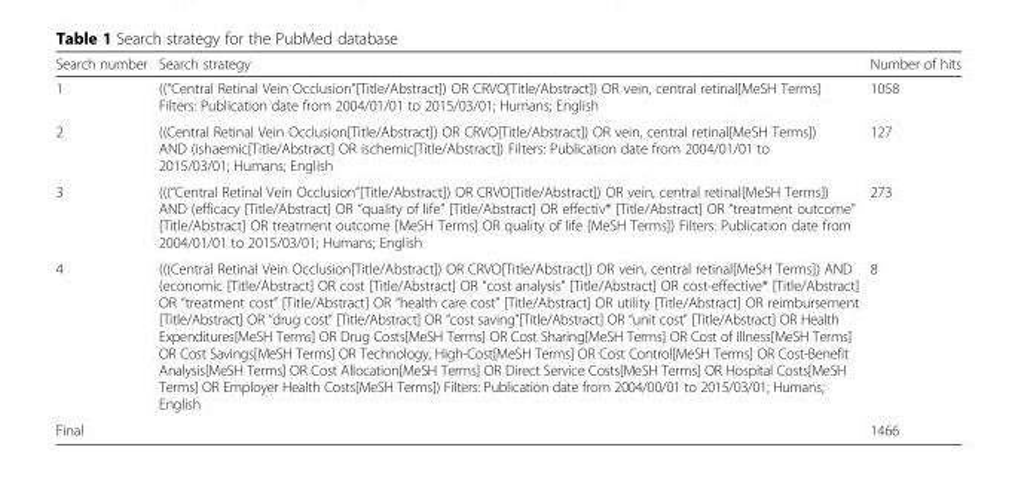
<table><thead><tr><td>Search number</td><td>Search strategy</td><td>Number of hits</td></tr></thead><tbody><tr><td>1</td><td>((“Central Retinal Vein Occlusion”[Title/Abstract]) OR CRVO[Title/Abstract]) OR vein, central retinal[MeSH Terms] Filters: Publication date from 2004/01/01 to 2015/03/01; Humans; English</td><td>1058</td></tr><tr><td>2</td><td>((Central Retinal Vein Occlusion[Title/Abstract]) OR CRVO[Title/Abstract]) OR vein, central retinal[MeSH Terms]) AND (ishaemic[Title/Abstract] OR ischemic[Title/Abstract]) Filters: Publication date from 2004/01/01 to 2015/03/01; Humans; English</td><td>127</td></tr><tr><td>3</td><td>(((“Central Retinal Vein Occlusion”[Title/Abstract]) OR CRVO[Title/Abstract]) OR vein, central retinal[MeSH Terms]) AND (efficacy [Title/Abstract] OR “quality of life” [Title/Abstract] OR effectiv* [Title/Abstract] OR “treatment outcome” [Title/Abstract] OR treatment outcome [MeSH Terms] OR quality of life [MeSH Terms]) Filters: Publication date from 2004/01/01 to 2015/03/01; Humans; English</td><td>273</td></tr><tr><td>4</td><td>(((Central Retinal Vein Occlusion[Title/Abstract]) OR CRVO[Title/Abstract]) OR vein, central retinal[MeSH Terms]) AND (economic [Title/Abstract] OR cost [Title/Abstract] OR “cost analysis” [Title/Abstract] OR cost-effective* [Title/Abstract] OR “treatment cost” [Title/Abstract] OR “health care cost” [Title/Abstract] OR utility [Title/Abstract] OR reimbursement [Title/Abstract] OR “drug cost” [Title/Abstract] OR “cost saving”[Title/Abstract] OR “unit cost” [Title/Abstract] OR Health Expenditures[MeSH Terms] OR Drug Costs[MeSH Terms] OR Cost Sharing[MeSH Terms] OR Cost of Illness[MeSH Terms] OR Cost Savings[MeSH Terms] OR Technology, High-Cost[MeSH Terms] OR Cost Control[MeSH Terms] OR Cost-Benefit Analysis[MeSH Terms] OR Cost Allocation[MeSH Terms] OR Direct Service Costs[MeSH Terms] OR Hospital Costs[MeSH Terms] OR Employer Health Costs[MeSH Terms]) Filters: Publication date from 2004/00/01 to 2015/03/01; Humans; English</td><td>8</td></tr><tr><td>Final</td><td></td><td>1466</td></tr></tbody></table>